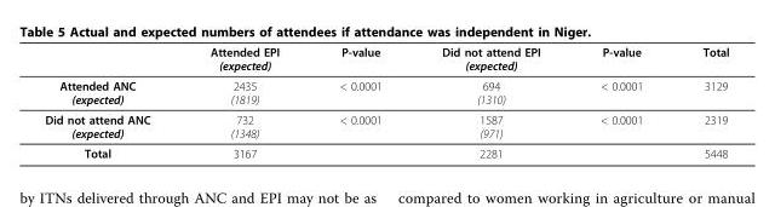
<table><thead><tr><td></td><td>Attended EPI (expected)</td><td>P-value</td><td>Did not attend EPI (expected)</td><td>P-value</td><td>Total</td></tr></thead><tbody><tr><td>Attended ANC (expected)</td><td>2435 (1819)</td><td>&lt; 0.0001</td><td>694 (1310)</td><td>&lt; 0.0001</td><td>3129</td></tr><tr><td>Did not attend ANC (expected)</td><td>732 (1348)</td><td>&lt; 0.0001</td><td>1587 (971)</td><td>&lt; 0.0001</td><td>2319</td></tr><tr><td>Total</td><td>3167</td><td></td><td>2281</td><td></td><td>5448</td></tr></tbody></table>